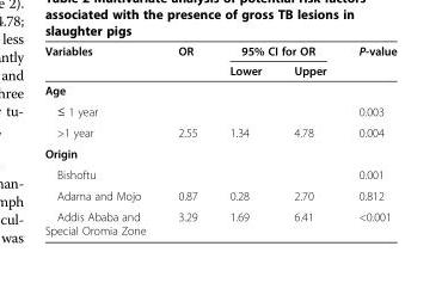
<table><thead><tr><td rowspan="2">Variables</td><td rowspan="2">OR</td><td colspan="2">95% CI for OR</td><td rowspan="2">P-value</td></tr><tr><td>Lower</td><td>Upper</td></tr></thead><tbody><tr><td colspan="5">Age</td></tr><tr><td>≤ 1 year</td><td></td><td></td><td></td><td>0.003</td></tr><tr><td>&gt;1 year</td><td>2.55</td><td>1.34</td><td>4.78</td><td>0.004</td></tr><tr><td colspan="5">Origin</td></tr><tr><td>Bishoftu</td><td></td><td></td><td></td><td>0.001</td></tr><tr><td>Adama and Mojo</td><td>0.87</td><td>0.28</td><td>2.70</td><td>0.812</td></tr><tr><td>Addis Ababa and Special Oromia Zone</td><td>3.29</td><td>1.69</td><td>6.41</td><td>&lt;0.001</td></tr></tbody></table>